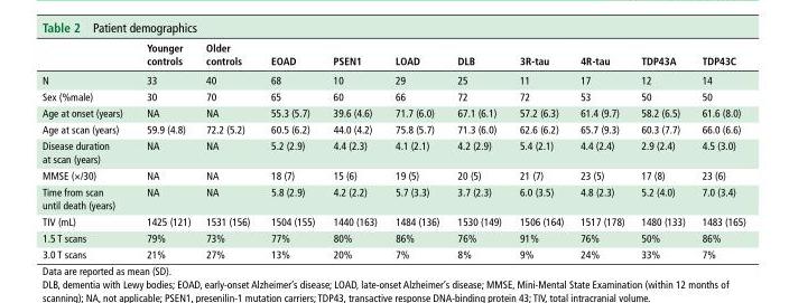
<table><thead><tr><td></td><td>Younger controls</td><td>Older controls</td><td>eOAd</td><td>PseN1</td><td>lOAd</td><td>dlb</td><td>3r-tau</td><td>4r-tau</td><td>TdP43A</td><td>TdP43C</td></tr></thead><tbody><tr><td>N</td><td>33</td><td>40</td><td>68</td><td>10</td><td>29</td><td>25</td><td>11</td><td>17</td><td>12</td><td>14</td></tr><tr><td>Sex (%male)</td><td>30</td><td>70</td><td>65</td><td>60</td><td>66</td><td>72</td><td>72</td><td>53</td><td>50</td><td>50</td></tr><tr><td>Age at onset (years)</td><td>NA</td><td>NA</td><td>55.3 (5.7)</td><td>39.6 (4.6)</td><td>71.7 (6.0)</td><td>67.1 (6.1)</td><td>57.2 (6.3)</td><td>61.4 (9.7)</td><td>58.2 (6.5)</td><td>61.6 (8.0)</td></tr><tr><td>Age at scan (years)</td><td>59.9 (4.8)</td><td>72.2 (5.2)</td><td>60.5 (6.2)</td><td>44.0 (4.2)</td><td>75.8 (5.7)</td><td>71.3 (6.0)</td><td>62.6 (6.2)</td><td>65.7 (9.3)</td><td>60.3 (7.7)</td><td>66.0 (6.6)</td></tr><tr><td>Disease duration at scan (years)</td><td>NA</td><td>NA</td><td>5.2 (2.9)</td><td>4.4 (2.3)</td><td>4.1 (2.1)</td><td>4.2 (2.9)</td><td>5.4 (2.1)</td><td>4.4 (2.4)</td><td>2.9 (2.4)</td><td>4.5 (3.0)</td></tr><tr><td>MMSE (×/30)</td><td>NA</td><td>NA</td><td>18 (7)</td><td>15 (6)</td><td>19 (5)</td><td>20 (5)</td><td>21 (7)</td><td>23 (5)</td><td>17 (8)</td><td>23 (6)</td></tr><tr><td>Time from scan until death (years)</td><td>NA</td><td>NA</td><td>5.8 (2.9)</td><td>4.2 (2.2)</td><td>5.7 (3.3)</td><td>3.7 (2.3)</td><td>6.0 (3.5)</td><td>4.8 (2.3)</td><td>5.2 (4.0)</td><td>7.0 (3.4)</td></tr><tr><td>TIV (mL)</td><td>1425 (121)</td><td>1531 (156)</td><td>1504 (155)</td><td>1440 (163)</td><td>1484 (136)</td><td>1530 (149)</td><td>1506 (164)</td><td>1517 (178)</td><td>1480 (133)</td><td>1483 (165)</td></tr><tr><td>1.5 T scans</td><td>79%</td><td>73%</td><td>77%</td><td>80%</td><td>86%</td><td>76%</td><td>91%</td><td>76%</td><td>50%</td><td>86%</td></tr><tr><td>3.0 T scans</td><td>21%</td><td>27%</td><td>13%</td><td>20%</td><td>7%</td><td>8%</td><td>9%</td><td>24%</td><td>33%</td><td>7%</td></tr></tbody></table>